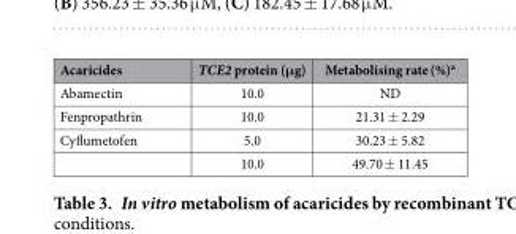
<table><thead><tr><td>Acaricides</td><td>TCE2 protein (μg)</td><td>Metabolising rate (%)<sup>a</sup></td></tr></thead><tbody><tr><td>Abamectin</td><td>10.0</td><td>ND</td></tr><tr><td>Fenpropathrin</td><td>10.0</td><td>21.31 ± 2.29</td></tr><tr><td rowspan="2">Cyflumetofen</td><td>5.0</td><td>30.23 ± 5.82</td></tr><tr><td>10.0</td><td>49.70 ± 11.45</td></tr></tbody></table>